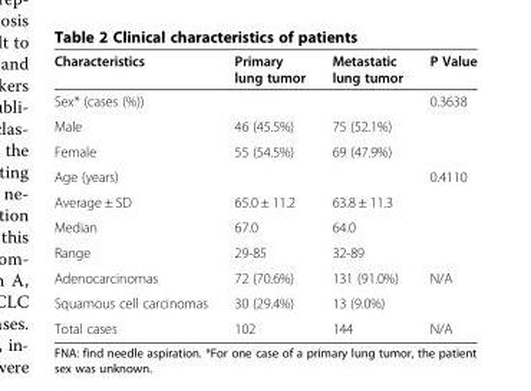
<table><thead><tr><td>Characteristics</td><td>Primary lung tumor</td><td>Metastatic lung tumor</td><td>P Value</td></tr></thead><tbody><tr><td colspan="3">Sex* (cases (%))</td><td rowspan="3">0.3638</td></tr><tr><td>Male</td><td>46 (45.5%)</td><td>75 (52.1%)</td></tr><tr><td>Female</td><td>55 (54.5%)</td><td>69 (47.9%)</td></tr><tr><td colspan="3">Age (years)</td><td rowspan="4">0.4110</td></tr><tr><td>Average ± SD</td><td>65.0 ± 11.2</td><td>63.8 ± 11.3</td></tr><tr><td>Median</td><td>67.0</td><td>64.0</td></tr><tr><td>Range</td><td>29-85</td><td>32-89</td></tr><tr><td>Adenocarcinomas</td><td>72 (70.6%)</td><td>131 (91.0%)</td><td rowspan="2">N/A</td></tr><tr><td>Squamous cell carcinomas</td><td>30 (29.4%)</td><td>13 (9.0%)</td></tr><tr><td>Total cases</td><td>102</td><td>144</td><td>N/A</td></tr></tbody></table>